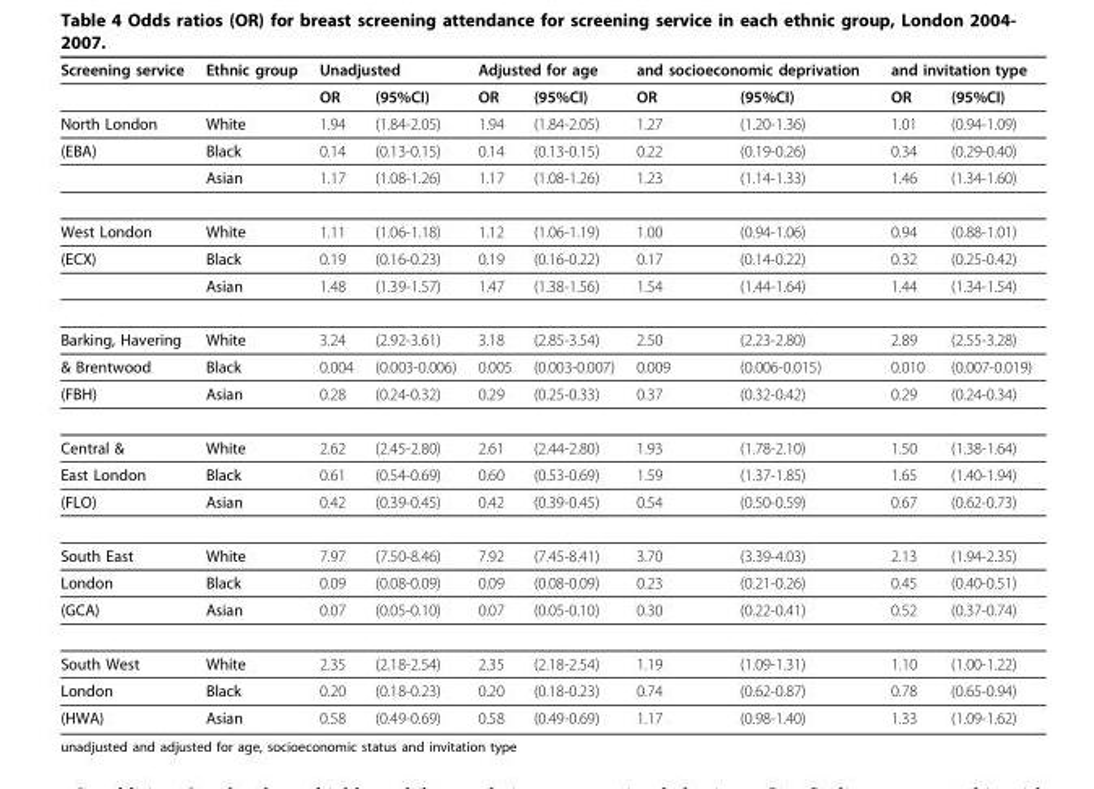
<table><thead><tr><td rowspan="2">Screening service</td><td rowspan="2">Ethnic group</td><td colspan="2">Unadjusted</td><td colspan="2">Adjusted for age</td><td colspan="2">and socioeconomic deprivation</td><td colspan="2">and invitation type</td></tr><tr><td>OR</td><td>(95%CI)</td><td>OR</td><td>(95%CI)</td><td>OR</td><td>(95%CI)</td><td>OR</td><td>(95%CI)</td></tr></thead><tbody><tr><td>North London</td><td>White</td><td>1.94</td><td>(1.84-2.05)</td><td>1.94</td><td>(1.84-2.05)</td><td>1.27</td><td>(1.20-1.36)</td><td>1.01</td><td>(0.94-1.09)</td></tr><tr><td rowspan="2">(EBA)</td><td>Black</td><td>0.14</td><td>(0.13-0.15)</td><td>0.14</td><td>(0.13-0.15)</td><td>0.22</td><td>(0.19-0.26)</td><td>0.34</td><td>(0.29-0.40)</td></tr><tr><td>Asian</td><td>1.17</td><td>(1.08-1.26)</td><td>1.17</td><td>(1.08-1.26)</td><td>1.23</td><td>(1.14-1.33)</td><td>1.46</td><td>(1.34-1.60)</td></tr><tr><td>West London</td><td>White</td><td>1.11</td><td>(1.06-1.18)</td><td>1.12</td><td>(1.06-1.19)</td><td>1.00</td><td>(0.94-1.06)</td><td>0.94</td><td>(0.88-1.01)</td></tr><tr><td rowspan="2">(ECX)</td><td>Black</td><td>0.19</td><td>(0.16-0.23)</td><td>0.19</td><td>(0.16-0.22)</td><td>0.17</td><td>(0.14-0.22)</td><td>0.32</td><td>(0.25-0.42)</td></tr><tr><td>Asian</td><td>1.48</td><td>(1.39-1.57)</td><td>1.47</td><td>(1.38-1.56)</td><td>1.54</td><td>(1.44-1.64)</td><td>1.44</td><td>(1.34-1.54)</td></tr><tr><td>Barking, Havering</td><td>White</td><td>3.24</td><td>(2.92-3.61)</td><td>3.18</td><td>(2.85-3.54)</td><td>2.50</td><td>(2.23-2.80)</td><td>2.89</td><td>(2.55-3.28)</td></tr><tr><td>&amp; Brentwood</td><td>Black</td><td>0.004</td><td>(0.003-0.006)</td><td>0.005</td><td>(0.003-0.007)</td><td>0.009</td><td>(0.006-0.015)</td><td>0.010</td><td>(0.007-0.019)</td></tr><tr><td>(FBH)</td><td>Asian</td><td>0.28</td><td>(0.24-0.32)</td><td>0.29</td><td>(0.25-0.33)</td><td>0.37</td><td>(0.32-0.42)</td><td>0.29</td><td>(0.24-0.34)</td></tr><tr><td>Central &amp;</td><td>White</td><td>2.62</td><td>(2.45-2.80)</td><td>2.61</td><td>(2.44-2.80)</td><td>1.93</td><td>(1.78-2.10)</td><td>1.50</td><td>(1.38-1.64)</td></tr><tr><td>East London</td><td>Black</td><td>0.61</td><td>(0.54-0.69)</td><td>0.60</td><td>(0.53-0.69)</td><td>1.59</td><td>(1.37-1.85)</td><td>1.65</td><td>(1.40-1.94)</td></tr><tr><td>(FLO)</td><td>Asian</td><td>0.42</td><td>(0.39-0.45)</td><td>0.42</td><td>(0.39-0.45)</td><td>0.54</td><td>(0.50-0.59)</td><td>0.67</td><td>(0.62-0.73)</td></tr><tr><td>South East</td><td>White</td><td>7.97</td><td>(7.50-8.46)</td><td>7.92</td><td>(7.45-8.41)</td><td>3.70</td><td>(3.39-4.03)</td><td>2.13</td><td>(1.94-2.35)</td></tr><tr><td>London</td><td>Black</td><td>0.09</td><td>(0.08-0.09)</td><td>0.09</td><td>(0.08-0.09)</td><td>0.23</td><td>(0.21-0.26)</td><td>0.45</td><td>(0.40-0.51)</td></tr><tr><td>(GCA)</td><td>Asian</td><td>0.07</td><td>(0.05-0.10)</td><td>0.07</td><td>(0.05-0.10)</td><td>0.30</td><td>(0.22-0.41)</td><td>0.52</td><td>(0.37-0.74)</td></tr><tr><td>South West</td><td>White</td><td>2.35</td><td>(2.18-2.54)</td><td>2.35</td><td>(2.18-2.54)</td><td>1.19</td><td>(1.09-1.31)</td><td>1.10</td><td>(1.00-1.22)</td></tr><tr><td>London</td><td>Black</td><td>0.20</td><td>(0.18-0.23)</td><td>0.20</td><td>(0.18-0.23)</td><td>0.74</td><td>(0.62-0.87)</td><td>0.78</td><td>(0.65-0.94)</td></tr><tr><td>(HWA)</td><td>Asian</td><td>0.58</td><td>(0.49-0.69)</td><td>0.58</td><td>(0.49-0.69)</td><td>1.17</td><td>(0.98-1.40)</td><td>1.33</td><td>(1.09-1.62)</td></tr></tbody></table>